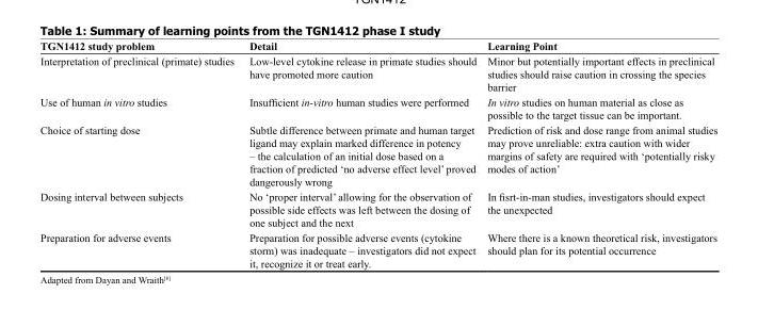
<table><thead><tr><td>TGN1412 study problem</td><td>Detail</td><td>Learning Point</td></tr></thead><tbody><tr><td>Interpretation of preclinical (primate) studies</td><td>Low-level cytokine release in primate studies should have promoted more caution</td><td>Minor but potentially important effects in preclinical studies should raise caution in crossing the species barrier</td></tr><tr><td>Use of human in vitro studies</td><td>Insufficient in-vitro human studies were performed</td><td>In vitro studies on human material as close as possible to the target tissue can be important.</td></tr><tr><td>Choice of starting dose</td><td>Subtle difference between primate and human target ligand may explain marked difference in potency – the calculation of an initial dose based on a fraction of predicted ‘no adverse effect level’ proved dangerously wrong</td><td>Prediction of risk and dose range from animal studies may prove unreliable: extra caution with wider margins of safety are required with ‘potentially risky modes of action’</td></tr><tr><td>Dosing interval between subjects</td><td>No ‘proper interval’ allowing for the observation of possible side effects was left between the dosing of one subject and the next</td><td>In fisrt-in-man studies, investigators should expect the unexpected</td></tr><tr><td>Preparation for adverse events</td><td>Preparation for possible adverse events (cytokine storm) was inadequate – investigators did not expect it, recognize it or treat early.</td><td>Where there is a known theoretical risk, investigators should plan for its potential occurrence</td></tr></tbody></table>